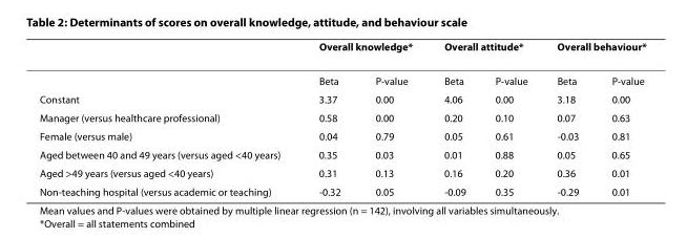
<table><thead><tr><td rowspan="2"></td><td colspan="2">Overall knowledge*</td><td colspan="2">Overall attitude*</td><td colspan="2">Overall behaviour*</td></tr><tr><td>Beta</td><td>P-value</td><td>Beta</td><td>P-value</td><td>Beta</td><td>P-value</td></tr></thead><tbody><tr><td>Constant</td><td>3.37</td><td>0.00</td><td>4.06</td><td>0.00</td><td>3.18</td><td>0.00</td></tr><tr><td>Manager (versus healthcare professional)</td><td>0.58</td><td>0.00</td><td>0.20</td><td>0.10</td><td>0.07</td><td>0.63</td></tr><tr><td>Female (versus male)</td><td>0.04</td><td>0.79</td><td>0.05</td><td>0.61</td><td>-0.03</td><td>0.81</td></tr><tr><td>Aged between 40 and 49 years (versus aged &lt;40 years)</td><td>0.35</td><td>0.03</td><td>0.01</td><td>0.88</td><td>0.05</td><td>0.65</td></tr><tr><td>Aged &gt;49 years (versus aged &lt;40 years)</td><td>0.31</td><td>0.13</td><td>0.16</td><td>0.20</td><td>0.36</td><td>0.01</td></tr><tr><td>Non-teaching hospital (versus academic or teaching)</td><td>-0.32</td><td>0.05</td><td>-0.09</td><td>0.35</td><td>-0.29</td><td>0.01</td></tr></tbody></table>